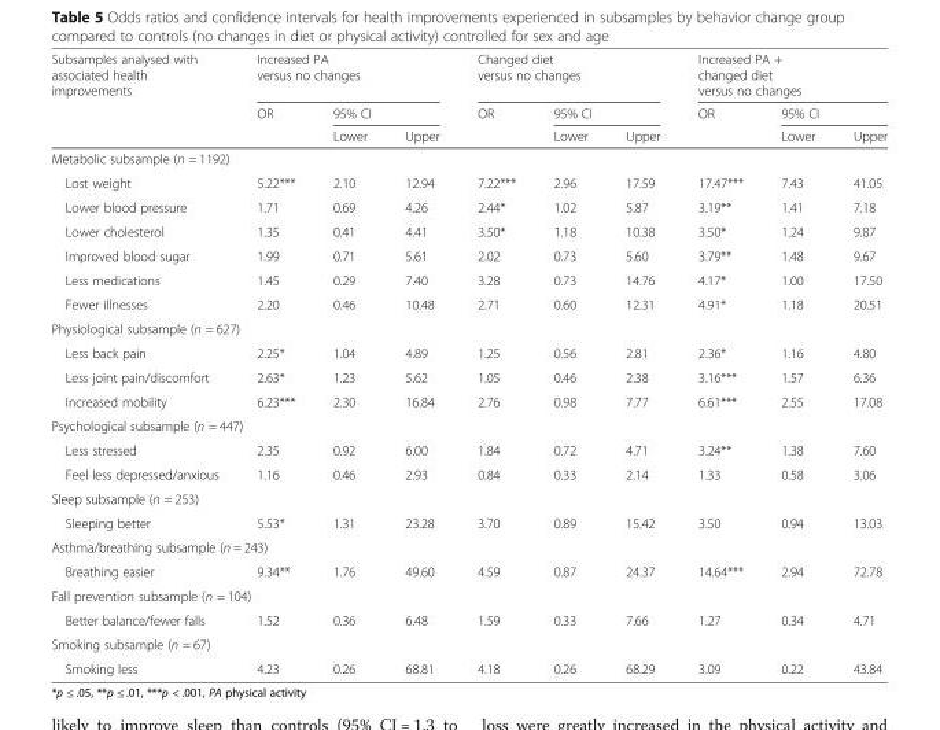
<table><thead><tr><td rowspan="3">Subsamples analysed with associated health improvements</td><td colspan="3">Increased PA versus no changes</td><td colspan="3">Changed diet versus no changes</td><td colspan="3">Increased PA + changed diet versus no changes</td></tr><tr><td rowspan="2">OR</td><td colspan="2">95% CI</td><td rowspan="2">OR</td><td colspan="2">95% CI</td><td rowspan="2">OR</td><td colspan="2">95% CI</td></tr><tr><td>Lower</td><td>Upper</td><td>Lower</td><td>Upper</td><td>Lower</td><td>Upper</td></tr></thead><tbody><tr><td colspan="10">Metabolic subsample (n = 1192)</td></tr><tr><td>Lost weight</td><td>5.22***</td><td>2.10</td><td>12.94</td><td>7.22***</td><td>2.96</td><td>17.59</td><td>17.47***</td><td>7.43</td><td>41.05</td></tr><tr><td>Lower blood pressure</td><td>1.71</td><td>0.69</td><td>4.26</td><td>2.44*</td><td>1.02</td><td>5.87</td><td>3.19**</td><td>1.41</td><td>7.18</td></tr><tr><td>Lower cholesterol</td><td>1.35</td><td>0.41</td><td>4.41</td><td>3.50*</td><td>1.18</td><td>10.38</td><td>3.50*</td><td>1.24</td><td>9.87</td></tr><tr><td>Improved blood sugar</td><td>1.99</td><td>0.71</td><td>5.61</td><td>2.02</td><td>0.73</td><td>5.60</td><td>3.79**</td><td>1.48</td><td>9.67</td></tr><tr><td>Less medications</td><td>1.45</td><td>0.29</td><td>7.40</td><td>3.28</td><td>0.73</td><td>14.76</td><td>4.17*</td><td>1.00</td><td>17.50</td></tr><tr><td>Fewer illnesses</td><td>2.20</td><td>0.46</td><td>10.48</td><td>2.71</td><td>0.60</td><td>12.31</td><td>4.91*</td><td>1.18</td><td>20.51</td></tr><tr><td colspan="10">Physiological subsample (n = 627)</td></tr><tr><td>Less back pain</td><td>2.25*</td><td>1.04</td><td>4.89</td><td>1.25</td><td>0.56</td><td>2.81</td><td>2.36*</td><td>1.16</td><td>4.80</td></tr><tr><td>Less joint pain/discomfort</td><td>2.63*</td><td>1.23</td><td>5.62</td><td>1.05</td><td>0.46</td><td>2.38</td><td>3.16***</td><td>1.57</td><td>6.36</td></tr><tr><td>Increased mobility</td><td>6.23***</td><td>2.30</td><td>16.84</td><td>2.76</td><td>0.98</td><td>7.77</td><td>6.61***</td><td>2.55</td><td>17.08</td></tr><tr><td colspan="10">Psychological subsample (n = 447)</td></tr><tr><td>Less stressed</td><td>2.35</td><td>0.92</td><td>6.00</td><td>1.84</td><td>0.72</td><td>4.71</td><td>3.24**</td><td>1.38</td><td>7.60</td></tr><tr><td>Feel less depressed/anxious</td><td>1.16</td><td>0.46</td><td>2.93</td><td>0.84</td><td>0.33</td><td>2.14</td><td>1.33</td><td>0.58</td><td>3.06</td></tr><tr><td colspan="10">Sleep subsample (n = 253)</td></tr><tr><td>Sleeping better</td><td>5.53*</td><td>1.31</td><td>23.28</td><td>3.70</td><td>0.89</td><td>15.42</td><td>3.50</td><td>0.94</td><td>13.03</td></tr><tr><td colspan="10">Asthma/breathing subsample (n = 243)</td></tr><tr><td>Breathing easier</td><td>9.34**</td><td>1.76</td><td>49.60</td><td>4.59</td><td>0.87</td><td>24.37</td><td>14.64***</td><td>2.94</td><td>72.78</td></tr><tr><td colspan="10">Fall prevention subsample (n = 104)</td></tr><tr><td>Better balance/fewer falls</td><td>1.52</td><td>0.36</td><td>6.48</td><td>1.59</td><td>0.33</td><td>7.66</td><td>1.27</td><td>0.34</td><td>4.71</td></tr><tr><td colspan="10">Smoking subsample (n = 67)</td></tr><tr><td>Smoking less</td><td>4.23</td><td>0.26</td><td>68.81</td><td>4.18</td><td>0.26</td><td>68.29</td><td>3.09</td><td>0.22</td><td>43.84</td></tr></tbody></table>